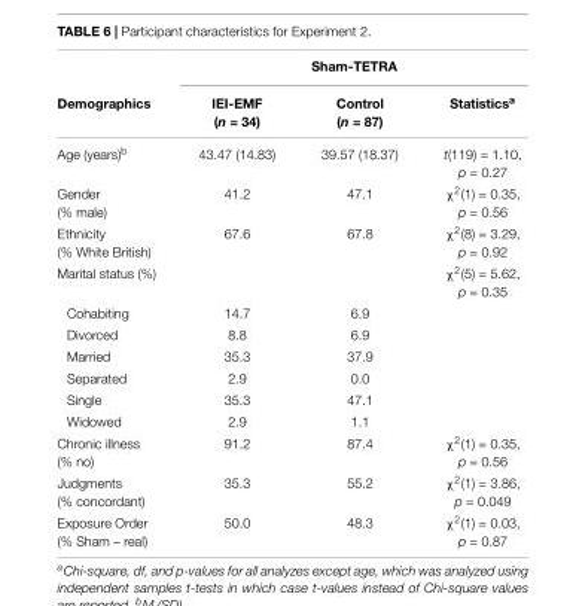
<table><thead><tr><td rowspan="2">Demographics</td><td colspan="3">Sham-TETRA</td></tr><tr><td>IEI-EMF (n = 34)</td><td>Control (n = 87)</td><td>Statistics<sup>a</sup></td></tr></thead><tbody><tr><td>Age (years)<sup>b</sup></td><td>43.47 (14.83)</td><td>39.57 (18.37)</td><td>t(119) = 1.10, p = 0.27</td></tr><tr><td>Gender (% male)</td><td>41.2</td><td>47.1</td><td>χ<sup>2</sup>(1) = 0.35, p = 0.56</td></tr><tr><td>Ethnicity (% White British)</td><td>67.6</td><td>67.8</td><td>χ<sup>2</sup>(8) = 3.29, p = 0.92</td></tr><tr><td>Marital status (%)</td><td></td><td></td><td>χ<sup>2</sup>(5) = 5.62, p = 0.35</td></tr><tr><td>Cohabiting</td><td>14.7</td><td>6.9</td><td></td></tr><tr><td>Divorced</td><td>8.8</td><td>6.9</td><td></td></tr><tr><td>Married</td><td>35.3</td><td>37.9</td><td></td></tr><tr><td>Separated</td><td>2.9</td><td>0.0</td><td></td></tr><tr><td>Single</td><td>35.3</td><td>47.1</td><td></td></tr><tr><td>Widowed</td><td>2.9</td><td>1.1</td><td></td></tr><tr><td>Chronic illness (% no)</td><td>91.2</td><td>87.4</td><td>χ<sup>2</sup>(1) = 0.35, p = 0.56</td></tr><tr><td>Judgments (% concordant)</td><td>35.3</td><td>55.2</td><td>χ<sup>2</sup>(1) = 3.86, p = 0.049</td></tr><tr><td>Exposure Order (% Sham – real)</td><td>50.0</td><td>48.3</td><td>χ<sup>2</sup>(1) = 0.03, p = 0.87</td></tr></tbody></table>